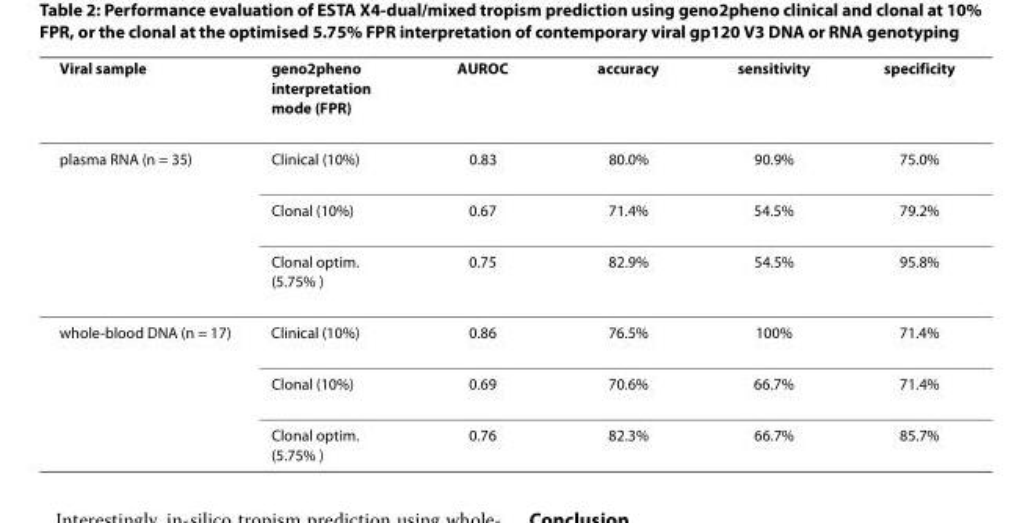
<table><thead><tr><td>Viral sample</td><td>geno2pheno interpretation mode (FPR)</td><td>AUROC</td><td>accuracy</td><td>sensitivity</td><td>specificity</td></tr></thead><tbody><tr><td rowspan="3">plasma RNA (n = 35)</td><td>Clinical (10%)</td><td>0.83</td><td>80.0%</td><td>90.9%</td><td>75.0%</td></tr><tr><td>Clonal (10%)</td><td>0.67</td><td>71.4%</td><td>54.5%</td><td>79.2%</td></tr><tr><td>Clonal optim. (5.75% )</td><td>0.75</td><td>82.9%</td><td>54.5%</td><td>95.8%</td></tr><tr><td rowspan="3">whole-blood DNA (n = 17)</td><td>Clinical (10%)</td><td>0.86</td><td>76.5%</td><td>100%</td><td>71.4%</td></tr><tr><td>Clonal (10%)</td><td>0.69</td><td>70.6%</td><td>66.7%</td><td>71.4%</td></tr><tr><td>Clonal optim. (5.75% )</td><td>0.76</td><td>82.3%</td><td>66.7%</td><td>85.7%</td></tr></tbody></table>